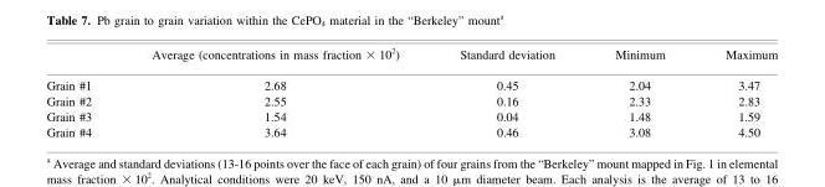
<table><thead><tr><td></td><td>Average (concentrations in mass fraction × 10<sup>2</sup>)</td><td>Standard deviation</td><td>Minimum</td><td>Maximum</td></tr></thead><tbody><tr><td>Grain #1</td><td>2.68</td><td>0.45</td><td>2.04</td><td>3.47</td></tr><tr><td>Grain #2</td><td>2.55</td><td>0.16</td><td>2.33</td><td>2.83</td></tr><tr><td>Grain #3</td><td>1.54</td><td>0.04</td><td>1.48</td><td>1.59</td></tr><tr><td>Grain #4</td><td>3.64</td><td>0.46</td><td>3.08</td><td>4.50</td></tr></tbody></table>